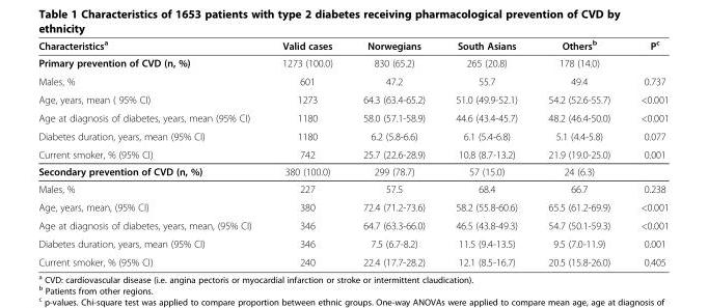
<table><thead><tr><td>Characteristics<sup>a</sup></td><td>Valid cases</td><td>Norwegians</td><td>South Asians</td><td>Others<sup>b</sup></td><td>P<sup>c</sup></td></tr></thead><tbody><tr><td>Primary prevention of CVD (n, %)</td><td>1273 (100.0)</td><td>830 (65.2)</td><td>265 (20.8)</td><td>178 (14.0)</td><td></td></tr><tr><td>Males, %</td><td>601</td><td>47.2</td><td>55.7</td><td>49.4</td><td>0.737</td></tr><tr><td>Age, years, mean ( 95% CI)</td><td>1273</td><td>64.3 (63.4-65.2)</td><td>51.0 (49.9-52.1)</td><td>54.2 (52.6-55.7)</td><td>&lt;0.001</td></tr><tr><td>Age at diagnosis of diabetes, years, mean (95% CI)</td><td>1180</td><td>58.0 (57.1-58.9)</td><td>44.6 (43.4-45.7)</td><td>48.2 (46.4-50.0)</td><td>&lt;0.001</td></tr><tr><td>Diabetes duration, years, mean (95% CI)</td><td>1180</td><td>6.2 (5.8-6.6)</td><td>6.1 (5.4-6.8)</td><td>5.1 (4.4-5.8)</td><td>0.077</td></tr><tr><td>Current smoker, % (95% CI)</td><td>742</td><td>25.7 (22.6-28.9)</td><td>10.8 (8.7-13.2)</td><td>21.9 (19.0-25.0)</td><td>0.001</td></tr><tr><td>Secondary prevention of CVD (n, %)</td><td>380 (100.0)</td><td>299 (78.7)</td><td>57 (15.0)</td><td>24 (6.3)</td><td></td></tr><tr><td>Males, %</td><td>227</td><td>57.5</td><td>68.4</td><td>66.7</td><td>0.238</td></tr><tr><td>Age, years, mean, (95% CI)</td><td>380</td><td>72.4 (71.2-73.6)</td><td>58.2 (55.8-60.6)</td><td>65.5 (61.2-69.9)</td><td>&lt;0.001</td></tr><tr><td>Age at diagnosis of diabetes, years, mean, (95% CI)</td><td>346</td><td>64.7 (63.3-66.0)</td><td>46.5 (43.8-49.3)</td><td>54.7 (50.1-59.3)</td><td>&lt;0.001</td></tr><tr><td>Diabetes duration, years, mean (95% CI)</td><td>346</td><td>7.5 (6.7-8.2)</td><td>11.5 (9.4-13.5)</td><td>9.5 (7.0-11.9)</td><td>0.001</td></tr><tr><td>Current smoker, % (95% CI)</td><td>240</td><td>22.4 (17.7-28.2)</td><td>12.1 (8.5-16.7)</td><td>20.5 (15.8-26.0)</td><td>0.405</td></tr></tbody></table>